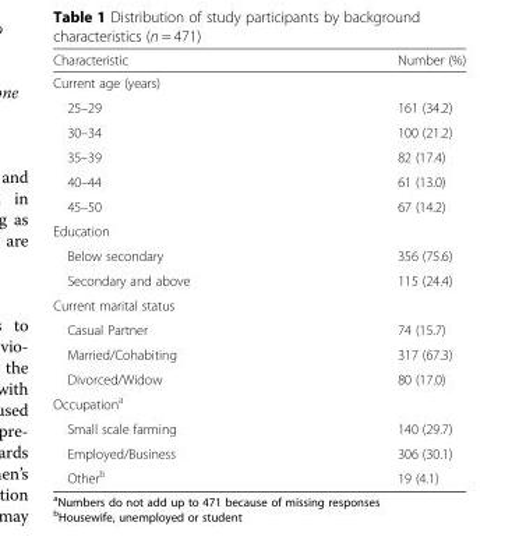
<table><thead><tr><td>Characteristic</td><td>Number (%)</td></tr></thead><tbody><tr><td colspan="2">Current age (years)</td></tr><tr><td>25–29</td><td>161 (34.2)</td></tr><tr><td>30–34</td><td>100 (21.2)</td></tr><tr><td>35–39</td><td>82 (17.4)</td></tr><tr><td>40–44</td><td>61 (13.0)</td></tr><tr><td>45–50</td><td>67 (14.2)</td></tr><tr><td colspan="2">Education</td></tr><tr><td>Below secondary</td><td>356 (75.6)</td></tr><tr><td>Secondary and above</td><td>115 (24.4)</td></tr><tr><td colspan="2">Current marital status</td></tr><tr><td>Casual Partner</td><td>74 (15.7)</td></tr><tr><td>Married/Cohabiting</td><td>317 (67.3)</td></tr><tr><td>Divorced/Widow</td><td>80 (17.0)</td></tr><tr><td colspan="2">Occupation<sup>a</sup></td></tr><tr><td>Small scale farming</td><td>140 (29.7)</td></tr><tr><td>Employed/Business</td><td>306 (30.1)</td></tr><tr><td>Other<sup>b</sup></td><td>19 (4.1)</td></tr></tbody></table>